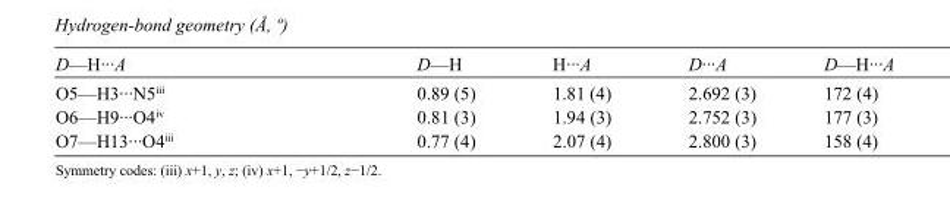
<table><tbody><tr><td>D—H···A</td><td>D—H</td><td>H···A</td><td>D···A</td><td>D—H···A</td></tr><tr><td>O5—H3···N5<sup>iii</sup></td><td>0.89 (5)</td><td>1.81 (4)</td><td>2.692 (3)</td><td>172 (4)</td></tr><tr><td>O6—H9···O4<sup>iv</sup></td><td>0.81 (3)</td><td>1.94 (3)</td><td>2.752 (3)</td><td>177 (3)</td></tr><tr><td>O7—H13···O4<sup>iii</sup></td><td>0.77 (4)</td><td>2.07 (4)</td><td>2.800 (3)</td><td>158 (4)</td></tr></tbody></table>